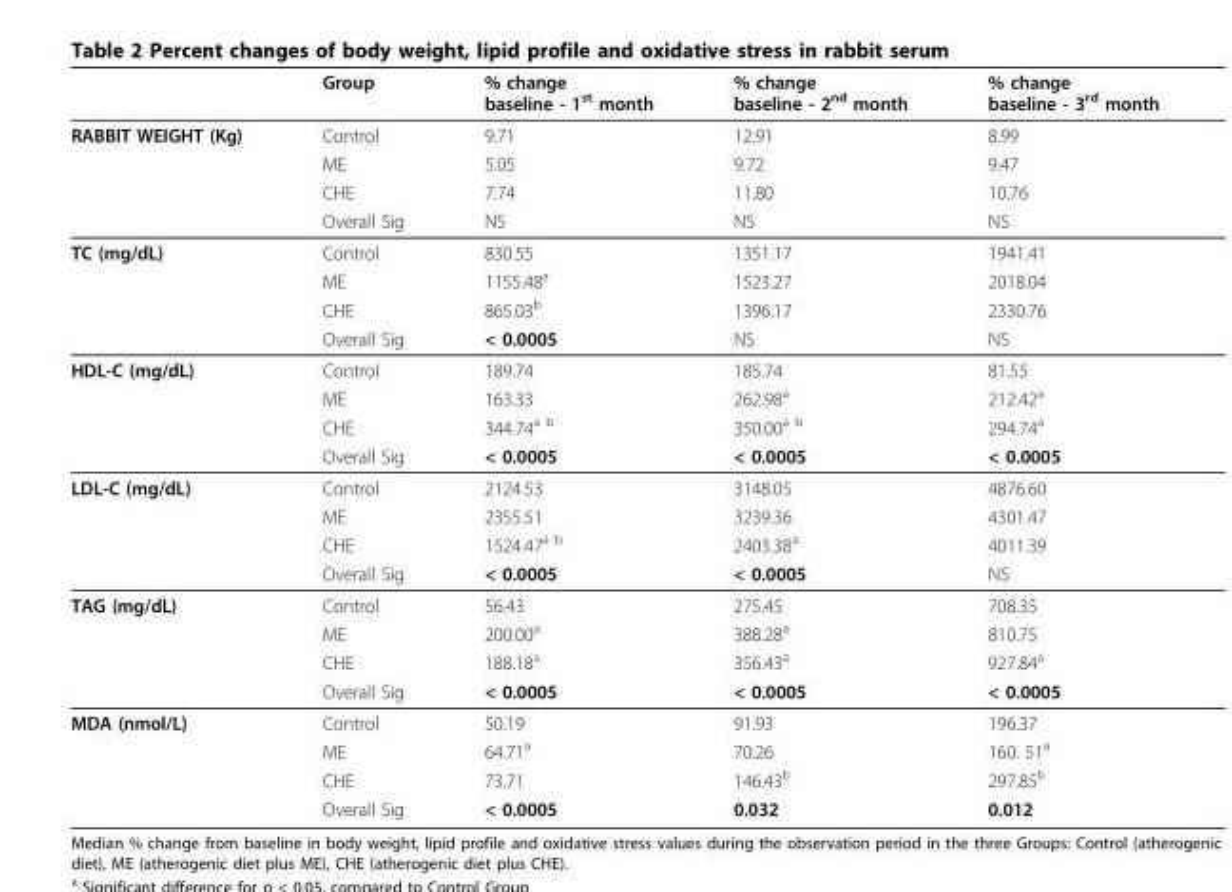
<table><thead><tr><td></td><td>Group</td><td>% change baseline - 1<sup>st</sup> month</td><td>% change baseline - 2<sup>nd</sup> month</td><td>% change baseline - 3<sup>rd</sup> month</td></tr></thead><tbody><tr><td rowspan="4">RABBIT WEIGHT (Kg)</td><td>Control</td><td>9.71</td><td>12.91</td><td>8.99</td></tr><tr><td>ME</td><td>5.05</td><td>9.72</td><td>9.47</td></tr><tr><td>CHE</td><td>7.74</td><td>11.80</td><td>10.76</td></tr><tr><td>Overall Sig</td><td>NS</td><td>NS</td><td>NS</td></tr><tr><td rowspan="4">TC (mg/dL)</td><td>Control</td><td>830.55</td><td>1351.17</td><td>1941.41</td></tr><tr><td>ME</td><td>1155.48<sup>a</sup></td><td>1523.27</td><td>2018.04</td></tr><tr><td>CHE</td><td>865.03<sup>b</sup></td><td>1396.17</td><td>2330.76</td></tr><tr><td>Overall Sig</td><td>&lt; 0.0005</td><td>NS</td><td>NS</td></tr><tr><td rowspan="4">HDL-C (mg/dL)</td><td>Control</td><td>189.74</td><td>185.74</td><td>81.55</td></tr><tr><td>ME</td><td>163.33</td><td>262.98<sup>a</sup></td><td>212.42<sup>a</sup></td></tr><tr><td>CHE</td><td>344.74<sup>a b</sup></td><td>350.00<sup>a b</sup></td><td>294.74<sup>a</sup></td></tr><tr><td>Overall Sig</td><td>&lt; 0.0005</td><td>&lt; 0.0005</td><td>&lt; 0.0005</td></tr><tr><td rowspan="4">LDL-C (mg/dL)</td><td>Control</td><td>2124.53</td><td>3148.05</td><td>4876.60</td></tr><tr><td>ME</td><td>2355.51</td><td>3239.36</td><td>4301.47</td></tr><tr><td>CHE</td><td>1524.47<sup>a b</sup></td><td>2403.38<sup>a</sup></td><td>4011.39</td></tr><tr><td>Overall Sig</td><td>&lt; 0.0005</td><td>&lt; 0.0005</td><td>NS</td></tr><tr><td rowspan="4">TAG (mg/dL)</td><td>Control</td><td>56.43</td><td>275.45</td><td>708.35</td></tr><tr><td>ME</td><td>200.00<sup>a</sup></td><td>388.28<sup>a</sup></td><td>810.75</td></tr><tr><td>CHE</td><td>188.18<sup>a</sup></td><td>356.43<sup>a</sup></td><td>927.84<sup>a</sup></td></tr><tr><td>Overall Sig</td><td>&lt; 0.0005</td><td>&lt; 0.0005</td><td>&lt; 0.0005</td></tr><tr><td rowspan="4">MDA (nmol/L)</td><td>Control</td><td>50.19</td><td>91.93</td><td>196.37</td></tr><tr><td>ME</td><td>64.71<sup>a</sup></td><td>70.26</td><td>160. 51<sup>a</sup></td></tr><tr><td>CHE</td><td>73.71</td><td>146.43<sup>b</sup></td><td>297.85<sup>b</sup></td></tr><tr><td>Overall Sig</td><td>&lt; 0.0005</td><td>0.032</td><td>0.012</td></tr></tbody></table>